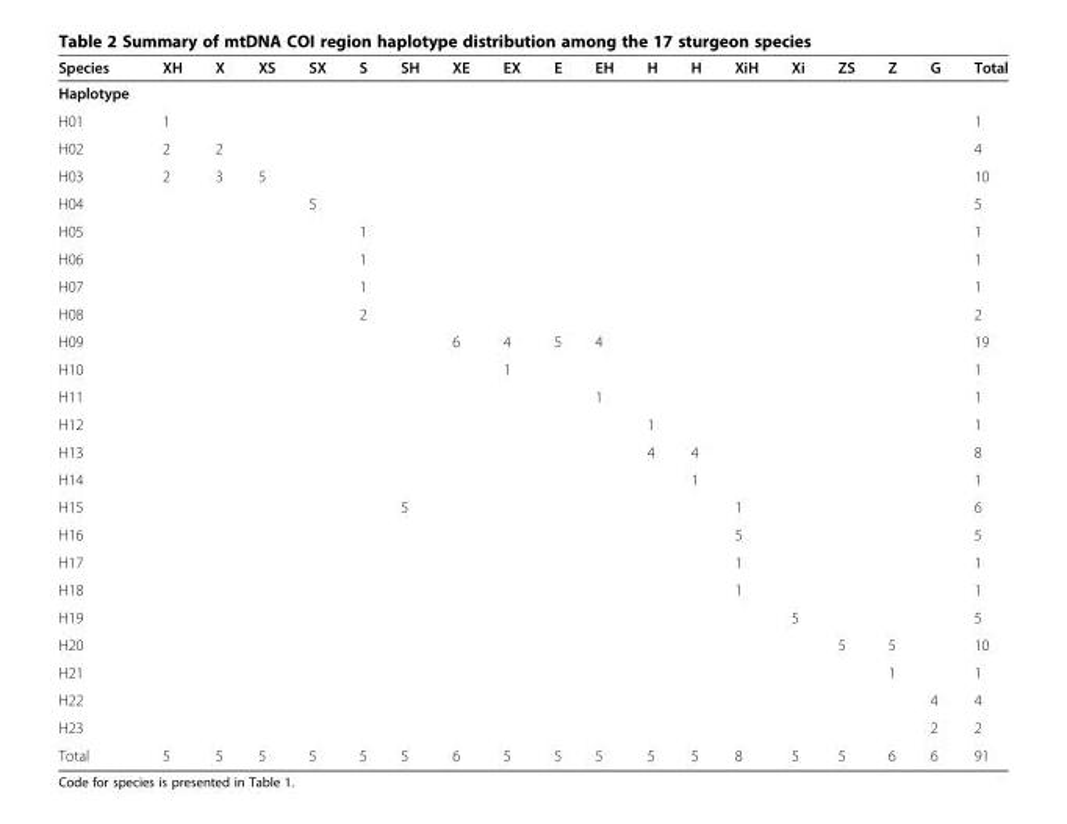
<table><thead><tr><td>Species</td><td>XH</td><td>X</td><td>XS</td><td>SX</td><td>S</td><td>SH</td><td>XE</td><td>EX</td><td>E</td><td>EH</td><td>H</td><td>H</td><td>XiH</td><td>Xi</td><td>ZS</td><td>Z</td><td>G</td><td>Total</td></tr></thead><tbody><tr><td colspan="19">Haplotype</td></tr><tr><td>H01</td><td>1</td><td></td><td></td><td></td><td></td><td></td><td></td><td></td><td></td><td></td><td></td><td></td><td></td><td></td><td></td><td></td><td></td><td>1</td></tr><tr><td>H02</td><td>2</td><td>2</td><td></td><td></td><td></td><td></td><td></td><td></td><td></td><td></td><td></td><td></td><td></td><td></td><td></td><td></td><td></td><td>4</td></tr><tr><td>H03</td><td>2</td><td>3</td><td>5</td><td></td><td></td><td></td><td></td><td></td><td></td><td></td><td></td><td></td><td></td><td></td><td></td><td></td><td></td><td>10</td></tr><tr><td>H04</td><td></td><td></td><td></td><td>5</td><td></td><td></td><td></td><td></td><td></td><td></td><td></td><td></td><td></td><td></td><td></td><td></td><td></td><td>5</td></tr><tr><td>H05</td><td></td><td></td><td></td><td></td><td>1</td><td></td><td></td><td></td><td></td><td></td><td></td><td></td><td></td><td></td><td></td><td></td><td></td><td>1</td></tr><tr><td>H06</td><td></td><td></td><td></td><td></td><td>1</td><td></td><td></td><td></td><td></td><td></td><td></td><td></td><td></td><td></td><td></td><td></td><td></td><td>1</td></tr><tr><td>H07</td><td></td><td></td><td></td><td></td><td>1</td><td></td><td></td><td></td><td></td><td></td><td></td><td></td><td></td><td></td><td></td><td></td><td></td><td>1</td></tr><tr><td>H08</td><td></td><td></td><td></td><td></td><td>2</td><td></td><td></td><td></td><td></td><td></td><td></td><td></td><td></td><td></td><td></td><td></td><td></td><td>2</td></tr><tr><td>H09</td><td></td><td></td><td></td><td></td><td></td><td></td><td>6</td><td>4</td><td>5</td><td>4</td><td></td><td></td><td></td><td></td><td></td><td></td><td></td><td>19</td></tr><tr><td>H10</td><td></td><td></td><td></td><td></td><td></td><td></td><td></td><td>1</td><td></td><td></td><td></td><td></td><td></td><td></td><td></td><td></td><td></td><td>1</td></tr><tr><td>H11</td><td></td><td></td><td></td><td></td><td></td><td></td><td></td><td></td><td></td><td>1</td><td></td><td></td><td></td><td></td><td></td><td></td><td></td><td>1</td></tr><tr><td>H12</td><td></td><td></td><td></td><td></td><td></td><td></td><td></td><td></td><td></td><td></td><td>1</td><td></td><td></td><td></td><td></td><td></td><td></td><td>1</td></tr><tr><td>H13</td><td></td><td></td><td></td><td></td><td></td><td></td><td></td><td></td><td></td><td></td><td>4</td><td>4</td><td></td><td></td><td></td><td></td><td></td><td>8</td></tr><tr><td>H14</td><td></td><td></td><td></td><td></td><td></td><td></td><td></td><td></td><td></td><td></td><td></td><td>1</td><td></td><td></td><td></td><td></td><td></td><td>1</td></tr><tr><td>H15</td><td></td><td></td><td></td><td></td><td></td><td>5</td><td></td><td></td><td></td><td></td><td></td><td></td><td>1</td><td></td><td></td><td></td><td></td><td>6</td></tr><tr><td>H16</td><td></td><td></td><td></td><td></td><td></td><td></td><td></td><td></td><td></td><td></td><td></td><td></td><td>5</td><td></td><td></td><td></td><td></td><td>5</td></tr><tr><td>H17</td><td></td><td></td><td></td><td></td><td></td><td></td><td></td><td></td><td></td><td></td><td></td><td></td><td>1</td><td></td><td></td><td></td><td></td><td>1</td></tr><tr><td>H18</td><td></td><td></td><td></td><td></td><td></td><td></td><td></td><td></td><td></td><td></td><td></td><td></td><td>1</td><td></td><td></td><td></td><td></td><td>1</td></tr><tr><td>H19</td><td></td><td></td><td></td><td></td><td></td><td></td><td></td><td></td><td></td><td></td><td></td><td></td><td></td><td>5</td><td></td><td></td><td></td><td>5</td></tr><tr><td>H20</td><td></td><td></td><td></td><td></td><td></td><td></td><td></td><td></td><td></td><td></td><td></td><td></td><td></td><td></td><td>5</td><td>5</td><td></td><td>10</td></tr><tr><td>H21</td><td></td><td></td><td></td><td></td><td></td><td></td><td></td><td></td><td></td><td></td><td></td><td></td><td></td><td></td><td></td><td>1</td><td></td><td>1</td></tr><tr><td>H22</td><td></td><td></td><td></td><td></td><td></td><td></td><td></td><td></td><td></td><td></td><td></td><td></td><td></td><td></td><td></td><td></td><td>4</td><td>4</td></tr><tr><td>H23</td><td></td><td></td><td></td><td></td><td></td><td></td><td></td><td></td><td></td><td></td><td></td><td></td><td></td><td></td><td></td><td></td><td>2</td><td>2</td></tr><tr><td>Total</td><td>5</td><td>5</td><td>5</td><td>5</td><td>5</td><td>5</td><td>6</td><td>5</td><td>5</td><td>5</td><td>5</td><td>5</td><td>8</td><td>5</td><td>5</td><td>6</td><td>6</td><td>91</td></tr></tbody></table>